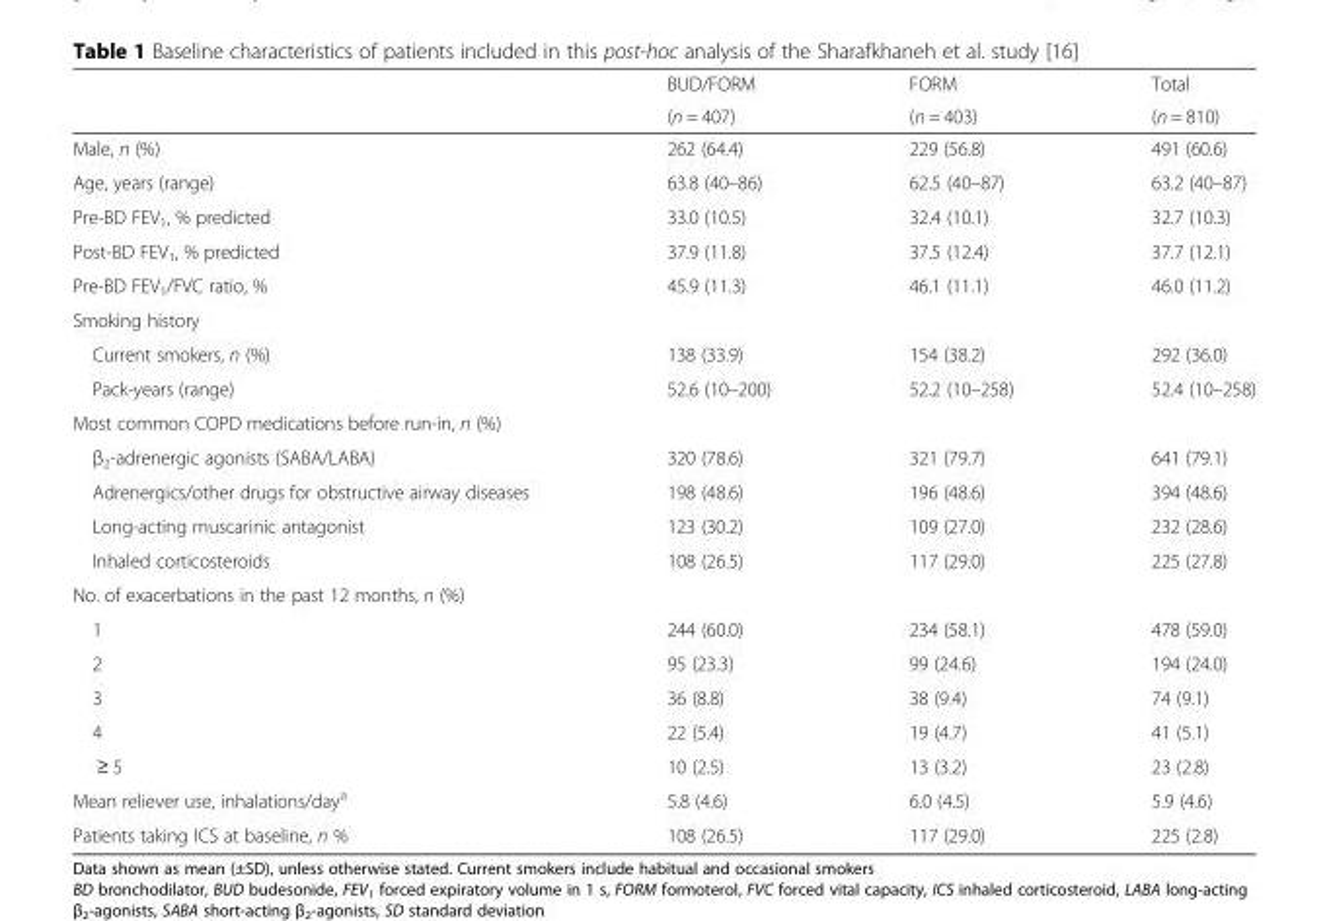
<table><thead><tr><td rowspan="2"></td><td rowspan="2">BUD/FORM (n = 407)</td><td rowspan="2">FORM (n = 403)</td><td rowspan="2">Total (n = 810)</td></tr><tr></tr></thead><tbody><tr><td>Male, n (%)</td><td>262 (64.4)</td><td>229 (56.8)</td><td>491 (60.6)</td></tr><tr><td>Age, years (range)</td><td>63.8 (40–86)</td><td>62.5 (40–87)</td><td>63.2 (40–87)</td></tr><tr><td>Pre-BD FEV<sub>1</sub>, % predicted</td><td>33.0 (10.5)</td><td>32.4 (10.1)</td><td>32.7 (10.3)</td></tr><tr><td>Post-BD FEV<sub>1</sub>, % predicted</td><td>37.9 (11.8)</td><td>37.5 (12.4)</td><td>37.7 (12.1)</td></tr><tr><td>Pre-BD FEV<sub>1</sub>/FVC ratio, %</td><td>45.9 (11.3)</td><td>46.1 (11.1)</td><td>46.0 (11.2)</td></tr><tr><td colspan="4">Smoking history</td></tr><tr><td>Current smokers, n (%)</td><td>138 (33.9)</td><td>154 (38.2)</td><td>292 (36.0)</td></tr><tr><td>Pack-years (range)</td><td>52.6 (10–200)</td><td>52.2 (10–258)</td><td>52.4 (10–258)</td></tr><tr><td colspan="4">Most common COPD medications before run-in, n (%)</td></tr><tr><td>β<sub>2</sub>-adrenergic agonists (SABA/LABA)</td><td>320 (78.6)</td><td>321 (79.7)</td><td>641 (79.1)</td></tr><tr><td>Adrenergics/other drugs for obstructive airway diseases</td><td>198 (48.6)</td><td>196 (48.6)</td><td>394 (48.6)</td></tr><tr><td>Long-acting muscarinic antagonist</td><td>123 (30.2)</td><td>109 (27.0)</td><td>232 (28.6)</td></tr><tr><td>Inhaled corticosteroids</td><td>108 (26.5)</td><td>117 (29.0)</td><td>225 (27.8)</td></tr><tr><td colspan="4">No. of exacerbations in the past 12 months, n (%)</td></tr><tr><td>1</td><td>244 (60.0)</td><td>234 (58.1)</td><td>478 (59.0)</td></tr><tr><td>2</td><td>95 (23.3)</td><td>99 (24.6)</td><td>194 (24.0)</td></tr><tr><td>3</td><td>36 (8.8)</td><td>38 (9.4)</td><td>74 (9.1)</td></tr><tr><td>4</td><td>22 (5.4)</td><td>19 (4.7)</td><td>41 (5.1)</td></tr><tr><td>≥ 5</td><td>10 (2.5)</td><td>13 (3.2)</td><td>23 (2.8)</td></tr><tr><td>Mean reliever use, inhalations/day<sup>a</sup></td><td>5.8 (4.6)</td><td>6.0 (4.5)</td><td>5.9 (4.6)</td></tr><tr><td>Patients taking ICS at baseline, n %</td><td>108 (26.5)</td><td>117 (29.0)</td><td>225 (2.8)</td></tr></tbody></table>